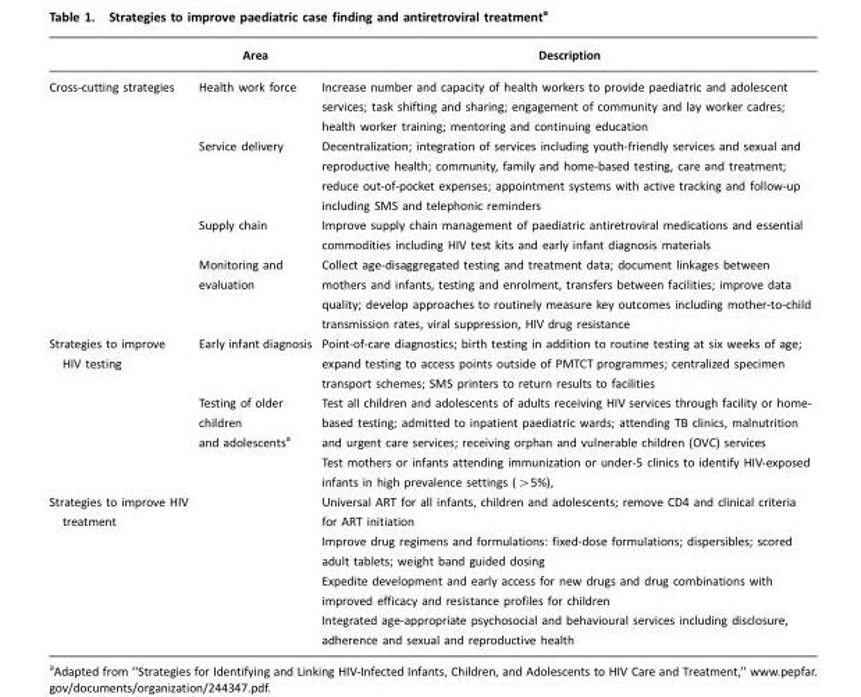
<table><thead><tr><td></td><td>Area</td><td>Description</td></tr></thead><tbody><tr><td rowspan="4">Cross-cutting strategies</td><td>Health work force</td><td>Increase number and capacity of health workers to provide paediatric and adolescent services; task shifting and sharing; engagement of community and lay worker cadres; health worker training; mentoring and continuing education</td></tr><tr><td>Service delivery</td><td>Decentralization; integration of services including youth-friendly services and sexual and reproductive health; community, family and home-based testing, care and treatment; reduce out-of-pocket expenses; appointment systems with active tracking and follow-up including SMS and telephonic reminders</td></tr><tr><td>Supply chain</td><td>Improve supply chain management of paediatric antiretroviral medications and essential commodities including HIV test kits and early infant diagnosis materials</td></tr><tr><td>Monitoring and evaluation</td><td>Collect age-disaggregated testing and treatment data; document linkages between mothers and infants, testing and enrolment, transfers between facilities; improve data quality; develop approaches to routinely measure key outcomes including mother-to-child transmission rates, viral suppression, HIV drug resistance</td></tr><tr><td rowspan="3">Strategies to improve HIV testing</td><td>Early infant diagnosis</td><td>Point-of-care diagnostics; birth testing in addition to routine testing at six weeks of age; expand testing to access points outside of PMTCT programmes; centralized specimen transport schemes; SMS printers to return results to facilities</td></tr><tr><td>Testing of older children and adolescents<sup>a</sup></td><td>Test all children and adolescents of adults receiving HIV services through facility or home- based testing; admitted to inpatient paediatric wards; attending TB clinics, malnutrition and urgent care services; receiving orphan and vulnerable children (OVC) services</td></tr><tr><td></td><td>Test mothers or infants attending immunization or under-5 clinics to identify HIV-exposed infants in high prevalence settings (&gt;5%),</td></tr><tr><td rowspan="4">Strategies to improve HIV treatment</td><td></td><td>Universal ART for all infants, children and adolescents; remove CD4 and clinical criteria for ART initiation</td></tr><tr><td></td><td>Improve drug regimens and formulations: fixed-dose formulations; dispersibles; scored adult tablets; weight band guided dosing</td></tr><tr><td></td><td>Expedite development and early access for new drugs and drug combinations with improved efficacy and resistance profiles for children</td></tr><tr><td></td><td>Integrated age-appropriate psychosocial and behavioural services including disclosure, adherence and sexual and reproductive health</td></tr></tbody></table>